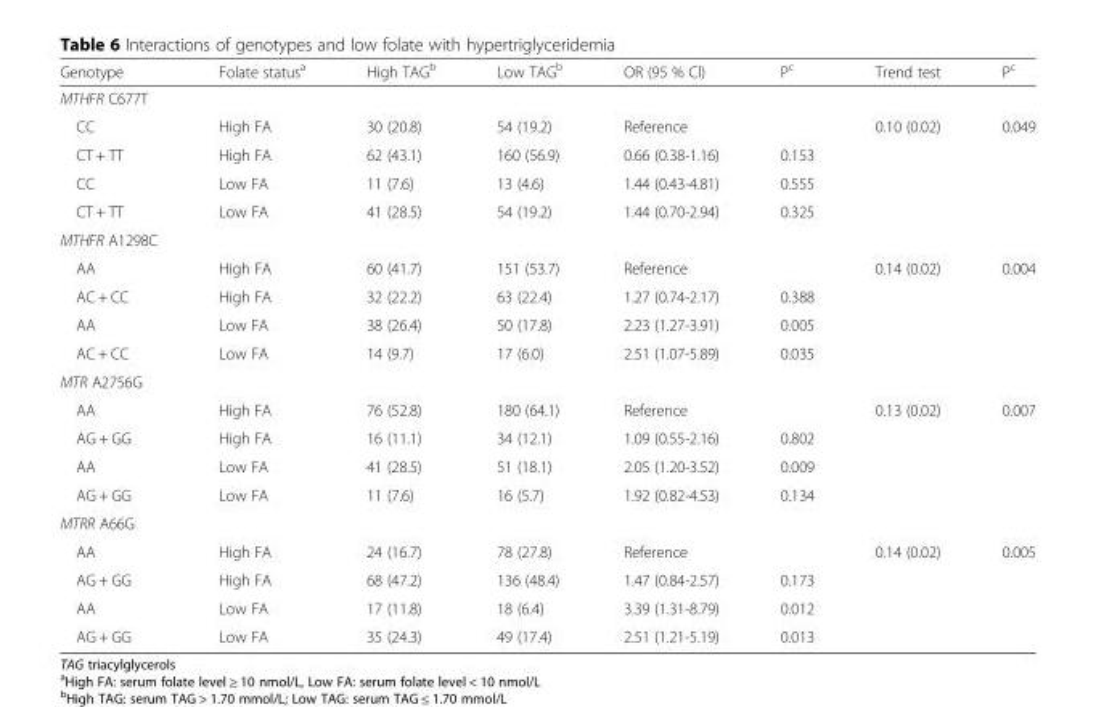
<table><thead><tr><td>Genotype</td><td>Folate status<sup>a</sup></td><td>High TAG<sup>b</sup></td><td>Low TAG<sup>b</sup></td><td>OR (95 % Cl)</td><td>P<sup>c</sup></td><td>Trend test</td><td>P<sup>c</sup></td></tr></thead><tbody><tr><td colspan="8">MTHFR C677T</td></tr><tr><td>CC</td><td>High FA</td><td>30 (20.8)</td><td>54 (19.2)</td><td>Reference</td><td></td><td rowspan="4">0.10 (0.02)</td><td rowspan="4">0.049</td></tr><tr><td>CT + TT</td><td>High FA</td><td>62 (43.1)</td><td>160 (56.9)</td><td>0.66 (0.38-1.16)</td><td>0.153</td></tr><tr><td>CC</td><td>Low FA</td><td>11 (7.6)</td><td>13 (4.6)</td><td>1.44 (0.43-4.81)</td><td>0.555</td></tr><tr><td>CT + TT</td><td>Low FA</td><td>41 (28.5)</td><td>54 (19.2)</td><td>1.44 (0.70-2.94)</td><td>0.325</td></tr><tr><td colspan="8">MTHFR A1298C</td></tr><tr><td>AA</td><td>High FA</td><td>60 (41.7)</td><td>151 (53.7)</td><td>Reference</td><td></td><td rowspan="4">0.14 (0.02)</td><td rowspan="4">0.004</td></tr><tr><td>AC + CC</td><td>High FA</td><td>32 (22.2)</td><td>63 (22.4)</td><td>1.27 (0.74-2.17)</td><td>0.388</td></tr><tr><td>AA</td><td>Low FA</td><td>38 (26.4)</td><td>50 (17.8)</td><td>2.23 (1.27-3.91)</td><td>0.005</td></tr><tr><td>AC + CC</td><td>Low FA</td><td>14 (9.7)</td><td>17 (6.0)</td><td>2.51 (1.07-5.89)</td><td>0.035</td></tr><tr><td colspan="8">MTR A2756G</td></tr><tr><td>AA</td><td>High FA</td><td>76 (52.8)</td><td>180 (64.1)</td><td>Reference</td><td></td><td rowspan="4">0.13 (0.02)</td><td rowspan="4">0.007</td></tr><tr><td>AG + GG</td><td>High FA</td><td>16 (11.1)</td><td>34 (12.1)</td><td>1.09 (0.55-2.16)</td><td>0.802</td></tr><tr><td>AA</td><td>Low FA</td><td>41 (28.5)</td><td>51 (18.1)</td><td>2.05 (1.20-3.52)</td><td>0.009</td></tr><tr><td>AG + GG</td><td>Low FA</td><td>11 (7.6)</td><td>16 (5.7)</td><td>1.92 (0.82-4.53)</td><td>0.134</td></tr><tr><td colspan="8">MTRR A66G</td></tr><tr><td>AA</td><td>High FA</td><td>24 (16.7)</td><td>78 (27.8)</td><td>Reference</td><td></td><td rowspan="4">0.14 (0.02)</td><td rowspan="4">0.005</td></tr><tr><td>AG + GG</td><td>High FA</td><td>68 (47.2)</td><td>136 (48.4)</td><td>1.47 (0.84-2.57)</td><td>0.173</td></tr><tr><td>AA</td><td>Low FA</td><td>17 (11.8)</td><td>18 (6.4)</td><td>3.39 (1.31-8.79)</td><td>0.012</td></tr><tr><td>AG + GG</td><td>Low FA</td><td>35 (24.3)</td><td>49 (17.4)</td><td>2.51 (1.21-5.19)</td><td>0.013</td></tr></tbody></table>